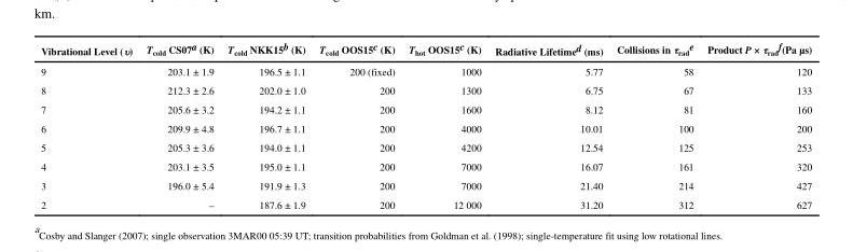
<table><thead><tr><td>Vibrational Level (υ)</td><td>T<sub>cold</sub> CS07<sup>a</sup> (K)</td><td>T<sub>cold</sub> NKK15<sup>b</sup> (K)</td><td>T<sub>cold</sub> OOS15<sup>c</sup> (K)</td><td>T<sub>hot</sub> OOS15<sup>c</sup> (K)</td><td>Radiative Lifetime<sup>d</sup> (ms)</td><td>Collisions in τ<sub>rad</sub><sup>e</sup></td><td>Product P × τ<sub>rad</sub><sup>f</sup>(Pa μs)</td></tr></thead><tbody><tr><td>9</td><td>203.1 ± 1.9</td><td>196.5 ± 1.1</td><td>200 (fixed)</td><td>1000</td><td>5.77</td><td>58</td><td>120</td></tr><tr><td>8</td><td>212.3 ± 2.6</td><td>202.0 ± 1.0</td><td>200</td><td>1300</td><td>6.75</td><td>67</td><td>133</td></tr><tr><td>7</td><td>205.6 ± 3.2</td><td>194.2 ± 1.1</td><td>200</td><td>1600</td><td>8.12</td><td>81</td><td>160</td></tr><tr><td>6</td><td>209.9 ± 4.8</td><td>196.7 ± 1.1</td><td>200</td><td>4000</td><td>10.01</td><td>100</td><td>200</td></tr><tr><td>5</td><td>205.3 ± 3.6</td><td>194.0 ± 1.1</td><td>200</td><td>4200</td><td>12.54</td><td>125</td><td>253</td></tr><tr><td>4</td><td>203.1 ± 3.5</td><td>195.0 ± 1.1</td><td>200</td><td>7000</td><td>16.07</td><td>161</td><td>320</td></tr><tr><td>3</td><td>196.0 ± 5.4</td><td>191.9 ± 1.3</td><td>200</td><td>7000</td><td>21.40</td><td>214</td><td>427</td></tr><tr><td>2</td><td>–</td><td>187.6 ± 1.9</td><td>200</td><td>12 000</td><td>31.20</td><td>312</td><td>627</td></tr></tbody></table>